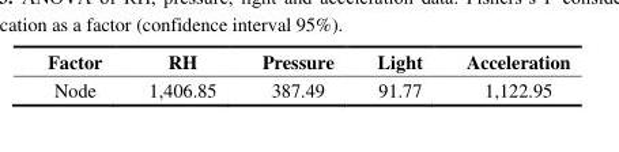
<table><thead><tr><td>Factor</td><td>RH</td><td>Pressure</td><td>Light</td><td>Acceleration</td></tr></thead><tbody><tr><td>Node</td><td>1,406.85</td><td>387.49</td><td>91.77</td><td>1,122.95</td></tr></tbody></table>